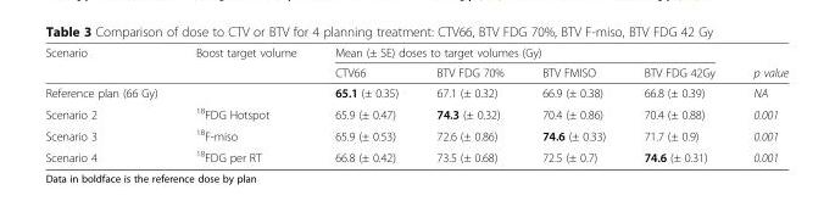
<table><thead><tr><td rowspan="2">Scenario</td><td rowspan="2">Boost target volume</td><td colspan="4">Mean (± SE) doses to target volumes (Gy)</td><td rowspan="2">p value</td></tr><tr><td>CTV66</td><td>BTV FDG 70%</td><td>BTV FMISO</td><td>BTV FDG 42Gy</td></tr></thead><tbody><tr><td>Reference plan (66 Gy)</td><td></td><td>65.1 (± 0.35)</td><td>67.1 (± 0.32)</td><td>66.9 (± 0.38)</td><td>66.8 (± 0.39)</td><td>NA</td></tr><tr><td>Scenario 2</td><td><sup>18</sup>FDG Hotspot</td><td>65.9 (± 0.47)</td><td>74.3 (± 0.32)</td><td>70.4 (± 0.86)</td><td>70.4 (± 0.88)</td><td>0.001</td></tr><tr><td>Scenario 3</td><td><sup>18</sup>F-miso</td><td>65.9 (± 0.53)</td><td>72.6 (± 0.86)</td><td>74.6 (± 0.33)</td><td>71.7 (± 0.9)</td><td>0.001</td></tr><tr><td>Scenario 4</td><td><sup>18</sup>FDG per RT</td><td>66.8 (± 0.42)</td><td>73.5 (± 0.68)</td><td>72.5 (± 0.7)</td><td>74.6 (± 0.31)</td><td>0.001</td></tr></tbody></table>